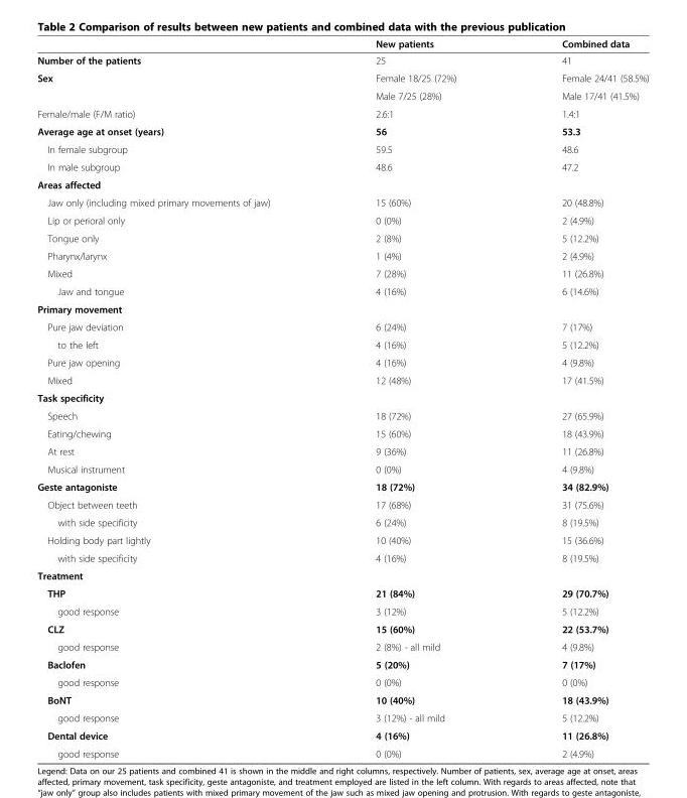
<table><thead><tr><td></td><td>New patients</td><td>Combined data</td></tr></thead><tbody><tr><td>Number of the patients</td><td>25</td><td>41</td></tr><tr><td rowspan="2">Sex</td><td>Female 18/25 (72%)</td><td>Female 24/41 (58.5%)</td></tr><tr><td>Male 7/25 (28%)</td><td>Male 17/41 (41.5%)</td></tr><tr><td>Female/male (F/M ratio)</td><td>2.6:1</td><td>1.4:1</td></tr><tr><td>Average age at onset (years)</td><td>56</td><td>53.3</td></tr><tr><td>In female subgroup</td><td>59.5</td><td>48.6</td></tr><tr><td>In male subgroup</td><td>48.6</td><td>47.2</td></tr><tr><td colspan="3">Areas affected</td></tr><tr><td>Jaw only (including mixed primary movements of jaw)</td><td>15 (60%)</td><td>20 (48.8%)</td></tr><tr><td>Lip or perioral only</td><td>0 (0%)</td><td>2 (4.9%)</td></tr><tr><td>Tongue only</td><td>2 (8%)</td><td>5 (12.2%)</td></tr><tr><td>Pharynx/larynx</td><td>1 (4%)</td><td>2 (4.9%)</td></tr><tr><td>Mixed</td><td>7 (28%)</td><td>11 (26.8%)</td></tr><tr><td>Jaw and tongue</td><td>4 (16%)</td><td>6 (14.6%)</td></tr><tr><td colspan="3">Primary movement</td></tr><tr><td>Pure jaw deviation</td><td>6 (24%)</td><td>7 (17%)</td></tr><tr><td>to the left</td><td>4 (16%)</td><td>5 (12.2%)</td></tr><tr><td>Pure jaw opening</td><td>4 (16%)</td><td>4 (9.8%)</td></tr><tr><td>Mixed</td><td>12 (48%)</td><td>17 (41.5%)</td></tr><tr><td colspan="3">Task specificity</td></tr><tr><td>Speech</td><td>18 (72%)</td><td>27 (65.9%)</td></tr><tr><td>Eating/chewing</td><td>15 (60%)</td><td>18 (43.9%)</td></tr><tr><td>At rest</td><td>9 (36%)</td><td>11 (26.8%)</td></tr><tr><td>Musical instrument</td><td>0 (0%)</td><td>4 (9.8%)</td></tr><tr><td>Geste antagoniste</td><td>18 (72%)</td><td>34 (82.9%)</td></tr><tr><td>Object between teeth</td><td>17 (68%)</td><td>31 (75.6%)</td></tr><tr><td>with side specificity</td><td>6 (24%)</td><td>8 (19.5%)</td></tr><tr><td>Holding body part lightly</td><td>10 (40%)</td><td>15 (36.6%)</td></tr><tr><td>with side specificity</td><td>4 (16%)</td><td>8 (19.5%)</td></tr><tr><td colspan="3">Treatment</td></tr><tr><td>THP</td><td>21 (84%)</td><td>29 (70.7%)</td></tr><tr><td>good response</td><td>3 (12%)</td><td>5 (12.2%)</td></tr><tr><td>CLZ</td><td>15 (60%)</td><td>22 (53.7%)</td></tr><tr><td>good response</td><td>2 (8%) - all mild</td><td>4 (9.8%)</td></tr><tr><td>Baclofen</td><td>5 (20%)</td><td>7 (17%)</td></tr><tr><td>good response</td><td>0 (0%)</td><td>0 (0%)</td></tr><tr><td>BoNT</td><td>10 (40%)</td><td>18 (43.9%)</td></tr><tr><td>good response</td><td>3 (12%) - all mild</td><td>5 (12.2%)</td></tr><tr><td>Dental device</td><td>4 (16%)</td><td>11 (26.8%)</td></tr><tr><td>good response</td><td>0 (0%)</td><td>2 (4.9%)</td></tr></tbody></table>